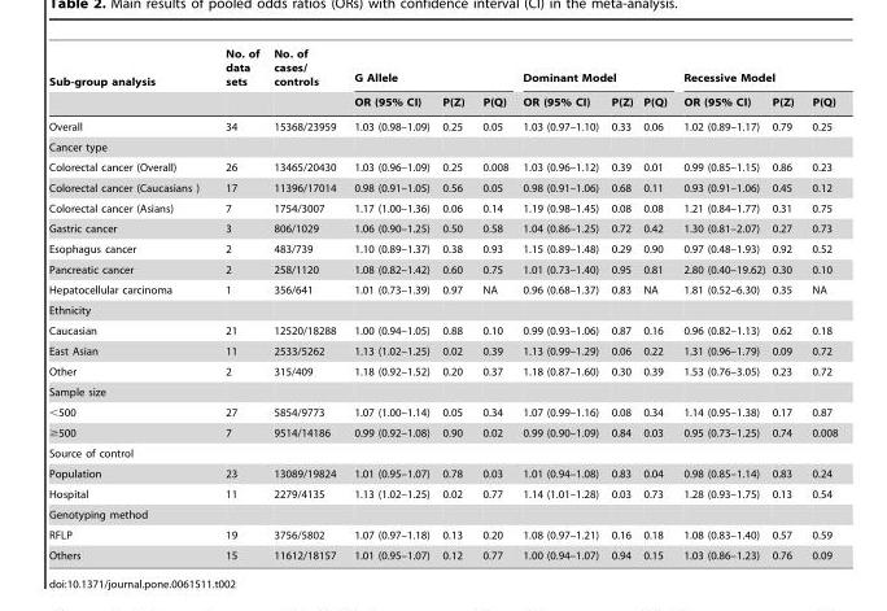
<table><thead><tr><td rowspan="2">Sub-group analysis</td><td rowspan="2">No. of data sets</td><td rowspan="2">No. of cases/ controls</td><td colspan="3">G Allele</td><td colspan="3">Dominant Model</td><td colspan="3">Recessive Model</td></tr><tr><td>OR (95% CI)</td><td>P(Z)</td><td>P(Q)</td><td>OR (95% CI)</td><td>P(Z)</td><td>P(Q)</td><td>OR (95% CI)</td><td>P(Z)</td><td>P(Q)</td></tr></thead><tbody><tr><td>Overall</td><td>34</td><td>15368/23959</td><td>1.03 (0.98–1.09)</td><td>0.25</td><td>0.05</td><td>1.03 (0.97–1.10)</td><td>0.33</td><td>0.06</td><td>1.02 (0.89–1.17)</td><td>0.79</td><td>0.25</td></tr><tr><td colspan="12">Cancer type</td></tr><tr><td>Colorectal cancer (Overall)</td><td>26</td><td>13465/20430</td><td>1.03 (0.96–1.09)</td><td>0.25</td><td>0.008</td><td>1.03 (0.96–1.12)</td><td>0.39</td><td>0.01</td><td>0.99 (0.85–1.15)</td><td>0.86</td><td>0.23</td></tr><tr><td>Colorectal cancer (Caucasians )</td><td>17</td><td>11396/17014</td><td>0.98 (0.91–1.05)</td><td>0.56</td><td>0.05</td><td>0.98 (0.91–1.06)</td><td>0.68</td><td>0.11</td><td>0.93 (0.91–1.06)</td><td>0.45</td><td>0.12</td></tr><tr><td>Colorectal cancer (Asians)</td><td>7</td><td>1754/3007</td><td>1.17 (1.00–1.36)</td><td>0.06</td><td>0.14</td><td>1.19 (0.98–1.45)</td><td>0.08</td><td>0.08</td><td>1.21 (0.84–1.77)</td><td>0.31</td><td>0.75</td></tr><tr><td>Gastric cancer</td><td>3</td><td>806/1029</td><td>1.06 (0.90–1.25)</td><td>0.50</td><td>0.58</td><td>1.04 (0.86–1.25)</td><td>0.72</td><td>0.42</td><td>1.30 (0.81–2.07)</td><td>0.27</td><td>0.73</td></tr><tr><td>Esophagus cancer</td><td>2</td><td>483/739</td><td>1.10 (0.89–1.37)</td><td>0.38</td><td>0.93</td><td>1.15 (0.89–1.48)</td><td>0.29</td><td>0.90</td><td>0.97 (0.48–1.93)</td><td>0.92</td><td>0.52</td></tr><tr><td>Pancreatic cancer</td><td>2</td><td>258/1120</td><td>1.08 (0.82–1.42)</td><td>0.60</td><td>0.75</td><td>1.01 (0.73–1.40)</td><td>0.95</td><td>0.81</td><td>2.80 (0.40–19.62)</td><td>0.30</td><td>0.10</td></tr><tr><td>Hepatocellular carcinoma</td><td>1</td><td>356/641</td><td>1.01 (0.73–1.39)</td><td>0.97</td><td>NA</td><td>0.96 (0.68–1.37)</td><td>0.83</td><td>NA</td><td>1.81 (0.52–6.30)</td><td>0.35</td><td>NA</td></tr><tr><td colspan="12">Ethnicity</td></tr><tr><td>Caucasian</td><td>21</td><td>12520/18288</td><td>1.00 (0.94–1.05)</td><td>0.88</td><td>0.10</td><td>0.99 (0.93–1.06)</td><td>0.87</td><td>0.16</td><td>0.96 (0.82–1.13)</td><td>0.62</td><td>0.18</td></tr><tr><td>East Asian</td><td>11</td><td>2533/5262</td><td>1.13 (1.02–1.25)</td><td>0.02</td><td>0.39</td><td>1.13 (0.99–1.29)</td><td>0.06</td><td>0.22</td><td>1.31 (0.96–1.79)</td><td>0.09</td><td>0.72</td></tr><tr><td>Other</td><td>2</td><td>315/409</td><td>1.18 (0.92–1.52)</td><td>0.20</td><td>0.37</td><td>1.18 (0.87–1.60)</td><td>0.30</td><td>0.39</td><td>1.53 (0.76–3.05)</td><td>0.23</td><td>0.72</td></tr><tr><td colspan="12">Sample size</td></tr><tr><td>&lt;500</td><td>27</td><td>5854/9773</td><td>1.07 (1.00–1.14)</td><td>0.05</td><td>0.34</td><td>1.07 (0.99–1.16)</td><td>0.08</td><td>0.34</td><td>1.14 (0.95–1.38)</td><td>0.17</td><td>0.87</td></tr><tr><td>≥500</td><td>7</td><td>9514/14186</td><td>0.99 (0.92–1.08)</td><td>0.90</td><td>0.02</td><td>0.99 (0.90–1.09)</td><td>0.84</td><td>0.03</td><td>0.95 (0.73–1.25)</td><td>0.74</td><td>0.008</td></tr><tr><td colspan="12">Source of control</td></tr><tr><td>Population</td><td>23</td><td>13089/19824</td><td>1.01 (0.95–1.07)</td><td>0.78</td><td>0.03</td><td>1.01 (0.94–1.08)</td><td>0.83</td><td>0.04</td><td>0.98 (0.85–1.14)</td><td>0.83</td><td>0.24</td></tr><tr><td>Hospital</td><td>11</td><td>2279/4135</td><td>1.13 (1.02–1.25)</td><td>0.02</td><td>0.77</td><td>1.14 (1.01–1.28)</td><td>0.03</td><td>0.73</td><td>1.28 (0.93–1.75)</td><td>0.13</td><td>0.54</td></tr><tr><td colspan="12">Genotyping method</td></tr><tr><td>RFLP</td><td>19</td><td>3756/5802</td><td>1.07 (0.97–1.18)</td><td>0.13</td><td>0.20</td><td>1.08 (0.97–1.21)</td><td>0.16</td><td>0.18</td><td>1.08 (0.83–1.40)</td><td>0.57</td><td>0.59</td></tr><tr><td>Others</td><td>15</td><td>11612/18157</td><td>1.01 (0.95–1.07)</td><td>0.12</td><td>0.77</td><td>1.00 (0.94–1.07)</td><td>0.94</td><td>0.15</td><td>1.03 (0.86–1.23)</td><td>0.76</td><td>0.09</td></tr></tbody></table>